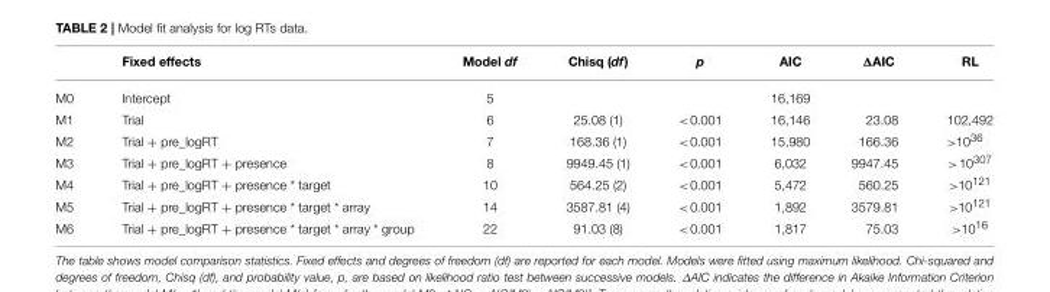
<table><thead><tr><td></td><td>Fixed effects</td><td>Model df</td><td>Chisq (df)</td><td>p</td><td>AIC</td><td>ΔAIC</td><td>RL</td></tr></thead><tbody><tr><td>M0</td><td>Intercept</td><td>5</td><td></td><td></td><td>16,169</td><td></td><td></td></tr><tr><td>M1</td><td>Trial</td><td>6</td><td>25.08 (1)</td><td>&lt;0.001</td><td>16,146</td><td>23.08</td><td>102,492</td></tr><tr><td>M2</td><td>Trial + pre_logRT</td><td>7</td><td>168.36 (1)</td><td>&lt;0.001</td><td>15,980</td><td>166.36</td><td>&gt;10<sup>36</sup></td></tr><tr><td>M3</td><td>Trial + pre_logRT + presence</td><td>8</td><td>9949.45 (1)</td><td>&lt;0.001</td><td>6,032</td><td>9947.45</td><td>&gt;10<sup>307</sup></td></tr><tr><td>M4</td><td>Trial + pre_logRT + presence * target</td><td>10</td><td>564.25 (2)</td><td>&lt;0.001</td><td>5,472</td><td>560.25</td><td>&gt;10<sup>121</sup></td></tr><tr><td>M5</td><td>Trial + pre_logRT + presence * target * array</td><td>14</td><td>3587.81 (4)</td><td>&lt;0.001</td><td>1,892</td><td>3579.81</td><td>&gt;10<sup>121</sup></td></tr><tr><td>M6</td><td>Trial + pre_logRT + presence * target * array * group</td><td>22</td><td>91.03 (8)</td><td>&lt;0.001</td><td>1,817</td><td>75.03</td><td>&gt;10<sup>16</sup></td></tr></tbody></table>